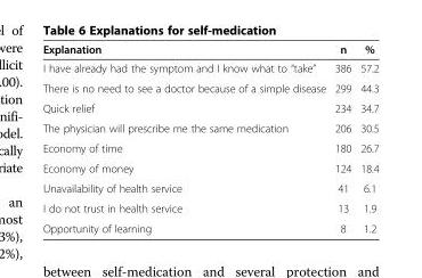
<table><thead><tr><td>Explanation</td><td>n</td><td>%</td></tr></thead><tbody><tr><td>I have already had the symptom and I know what to “take”</td><td>386</td><td>57.2</td></tr><tr><td>There is no need to see a doctor because of a simple disease</td><td>299</td><td>44.3</td></tr><tr><td>Quick relief</td><td>234</td><td>34.7</td></tr><tr><td>The physician will prescribe me the same medication</td><td>206</td><td>30.5</td></tr><tr><td>Economy of time</td><td>180</td><td>26.7</td></tr><tr><td>Economy of money</td><td>124</td><td>18.4</td></tr><tr><td>Unavailability of health service</td><td>41</td><td>6.1</td></tr><tr><td>I do not trust in health service</td><td>13</td><td>1.9</td></tr><tr><td>Opportunity of learning</td><td>8</td><td>1.2</td></tr></tbody></table>